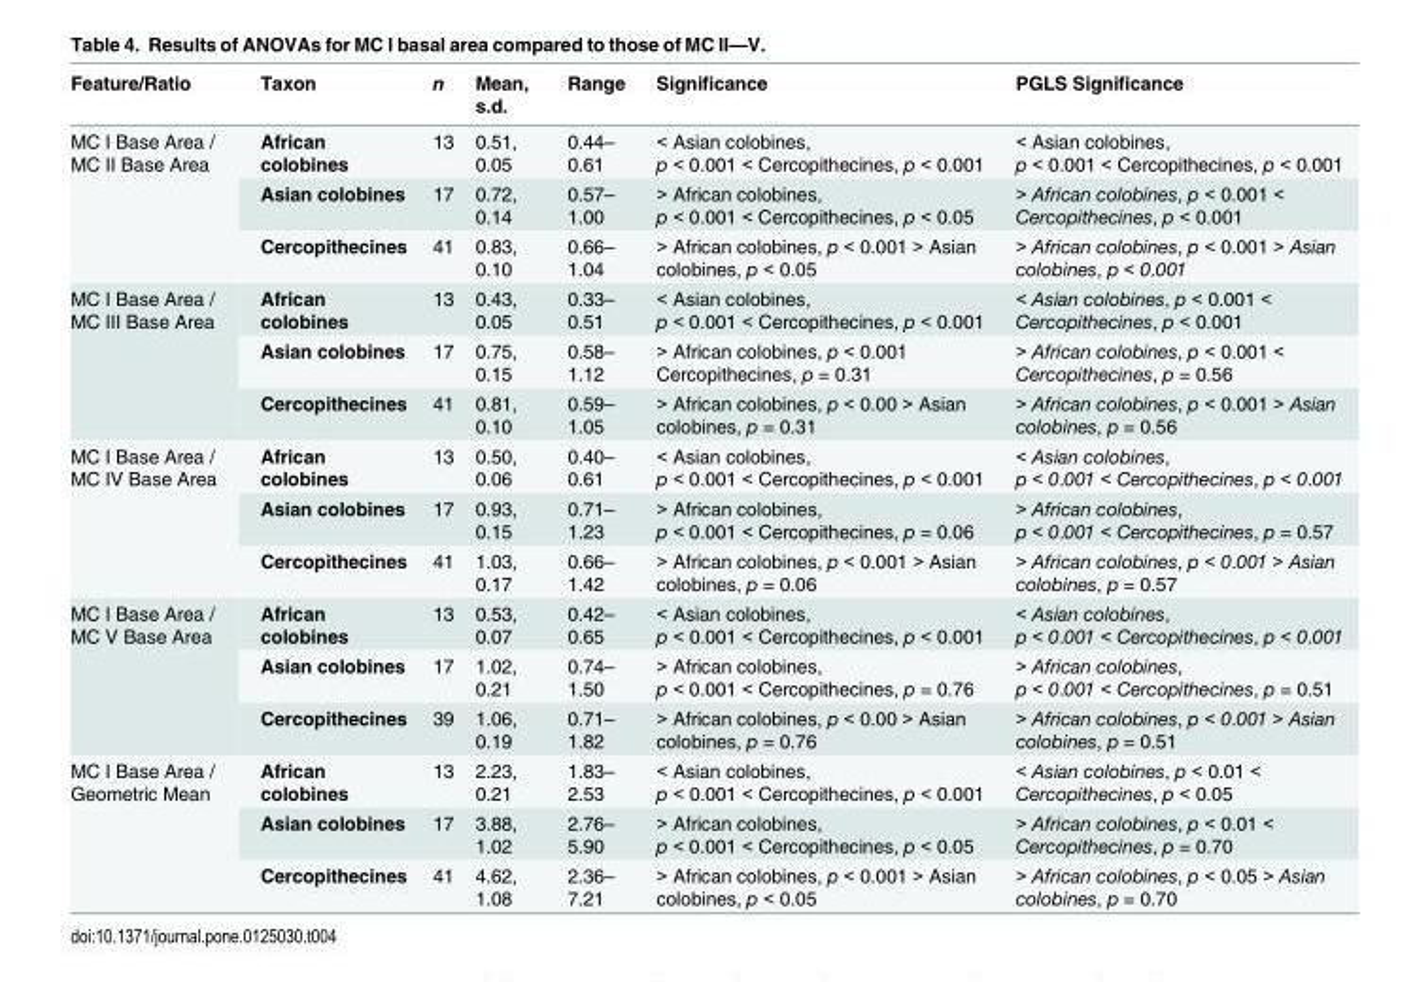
<table><thead><tr><td>Feature/Ratio</td><td>Taxon</td><td>n</td><td>Mean, s.d.</td><td>Range</td><td>Significance</td><td>PGLS Significance</td></tr></thead><tbody><tr><td rowspan="3">MC I Base Area / MC II Base Area</td><td>African colobines</td><td>13</td><td>0.51, 0.05</td><td>0.44– 0.61</td><td>&lt; Asian colobines, p &lt; 0.001 &lt; Cercopithecines, p &lt; 0.001</td><td>&lt; Asian colobines, p &lt; 0.001 &lt; Cercopithecines, p &lt; 0.001</td></tr><tr><td>Asian colobines</td><td>17</td><td>0.72, 0.14</td><td>0.57– 1.00</td><td>&gt; African colobines, p &lt; 0.001 &lt; Cercopithecines, p &lt; 0.05</td><td>&gt; African colobines, p &lt; 0.001 &lt; Cercopithecines, p &lt; 0.001</td></tr><tr><td>Cercopithecines</td><td>41</td><td>0.83, 0.10</td><td>0.66– 1.04</td><td>&gt; African colobines, p &lt; 0.001 &gt; Asian colobines, p &lt; 0.05</td><td>&gt; African colobines, p &lt; 0.001 &gt; Asian colobines, p &lt; 0.001</td></tr><tr><td rowspan="3">MC I Base Area / MC III Base Area</td><td>African colobines</td><td>13</td><td>0.43, 0.05</td><td>0.33– 0.51</td><td>&lt; Asian colobines, p &lt; 0.001 &lt; Cercopithecines, p &lt; 0.001</td><td>&lt; Asian colobines, p &lt; 0.001 &lt; Cercopithecines, p &lt; 0.001</td></tr><tr><td>Asian colobines</td><td>17</td><td>0.75, 0.15</td><td>0.58– 1.12</td><td>&gt; African colobines, p &lt; 0.001 Cercopithecines, p = 0.31</td><td>&gt; African colobines, p &lt; 0.001 &lt; Cercopithecines, p = 0.56</td></tr><tr><td>Cercopithecines</td><td>41</td><td>0.81, 0.10</td><td>0.59– 1.05</td><td>&gt; African colobines, p &lt; 0.00 &gt; Asian colobines, p = 0.31</td><td>&gt; African colobines, p &lt; 0.001 &gt; Asian colobines, p = 0.56</td></tr><tr><td rowspan="3">MC I Base Area / MC IV Base Area</td><td>African colobines</td><td>13</td><td>0.50, 0.06</td><td>0.40– 0.61</td><td>&lt; Asian colobines, p &lt; 0.001 &lt; Cercopithecines, p &lt; 0.001</td><td>&lt; Asian colobines, p &lt; 0.001 &lt; Cercopithecines, p &lt; 0.001</td></tr><tr><td>Asian colobines</td><td>17</td><td>0.93, 0.15</td><td>0.71– 1.23</td><td>&gt; African colobines, p &lt; 0.001 &lt; Cercopithecines, p = 0.06</td><td>&gt; African colobines, p &lt; 0.001 &lt; Cercopithecines, p = 0.57</td></tr><tr><td>Cercopithecines</td><td>41</td><td>1.03, 0.17</td><td>0.66– 1.42</td><td>&gt; African colobines, p &lt; 0.001 &gt; Asian colobines, p = 0.06</td><td>&gt; African colobines, p &lt; 0.001 &gt; Asian colobines, p = 0.57</td></tr><tr><td rowspan="3">MC I Base Area / MC V Base Area</td><td>African colobines</td><td>13</td><td>0.53, 0.07</td><td>0.42– 0.65</td><td>&lt; Asian colobines, p &lt; 0.001 &lt; Cercopithecines, p &lt; 0.001</td><td>&lt; Asian colobines, p &lt; 0.001 &lt; Cercopithecines, p &lt; 0.001</td></tr><tr><td>Asian colobines</td><td>17</td><td>1.02, 0.21</td><td>0.74– 1.50</td><td>&gt; African colobines, p &lt; 0.001 &lt; Cercopithecines, p = 0.76</td><td>&gt; African colobines, p &lt; 0.001 &lt; Cercopithecines, p = 0.51</td></tr><tr><td>Cercopithecines</td><td>39</td><td>1.06, 0.19</td><td>0.71– 1.82</td><td>&gt; African colobines, p &lt; 0.00 &gt; Asian colobines, p = 0.76</td><td>&gt; African colobines, p &lt; 0.001 &gt; Asian colobines, p = 0.51</td></tr><tr><td rowspan="3">MC I Base Area / Geometric Mean</td><td>African colobines</td><td>13</td><td>2.23, 0.21</td><td>1.83– 2.53</td><td>&lt; Asian colobines, p &lt; 0.001 &lt; Cercopithecines, p &lt; 0.001</td><td>&lt; Asian colobines, p &lt; 0.01 &lt; Cercopithecines, p &lt; 0.05</td></tr><tr><td>Asian colobines</td><td>17</td><td>3.88, 1.02</td><td>2.76– 5.90</td><td>&gt; African colobines, p &lt; 0.001 &lt; Cercopithecines, p &lt; 0.05</td><td>&gt; African colobines, p &lt; 0.01 &lt; Cercopithecines, p = 0.70</td></tr><tr><td>Cercopithecines</td><td>41</td><td>4.62, 1.08</td><td>2.36– 7.21</td><td>&gt; African colobines, p &lt; 0.001 &gt; Asian colobines, p &lt; 0.05</td><td>&gt; African colobines, p &lt; 0.05 &gt; Asian colobines, p = 0.70</td></tr></tbody></table>